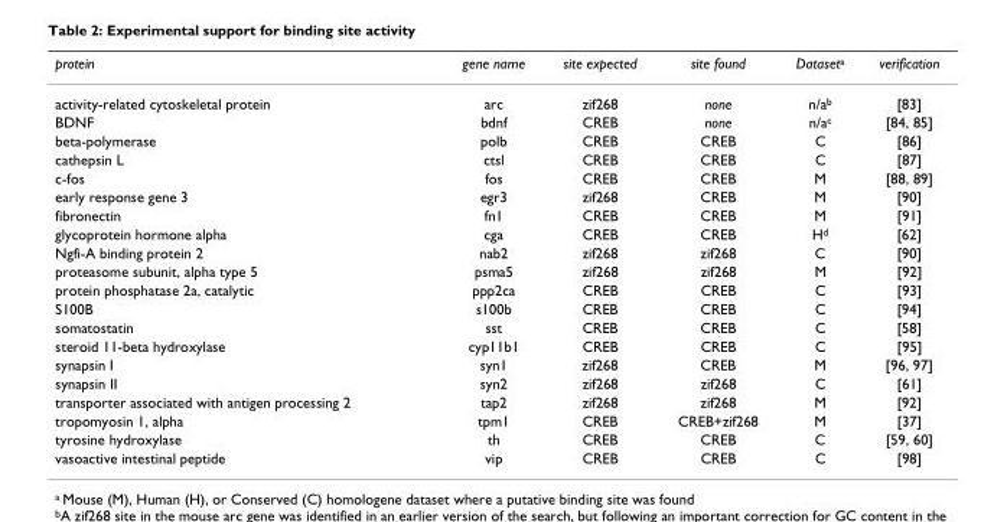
<table><thead><tr><td>protein</td><td>gene name</td><td>site expected</td><td>site found</td><td>Dataseta</td><td>verification</td></tr></thead><tbody><tr><td>activity-related cytoskeletal protein</td><td>arc</td><td>zif268</td><td>none</td><td>n/ab</td><td>[83]</td></tr><tr><td>BDNF</td><td>bdnf</td><td>CREB</td><td>none</td><td>n/ac</td><td>[84, 85]</td></tr><tr><td>beta-polymerase</td><td>polb</td><td>CREB</td><td>CREB</td><td>C</td><td>[86]</td></tr><tr><td>cathepsin L</td><td>ctsl</td><td>CREB</td><td>CREB</td><td>C</td><td>[87]</td></tr><tr><td>c-fos</td><td>fos</td><td>CREB</td><td>CREB</td><td>M</td><td>[88, 89]</td></tr><tr><td>early response gene 3</td><td>egr3</td><td>zif268</td><td>CREB</td><td>M</td><td>[90]</td></tr><tr><td>fibronectin</td><td>fn1</td><td>CREB</td><td>CREB</td><td>M</td><td>[91]</td></tr><tr><td>glycoprotein hormone alpha</td><td>cga</td><td>CREB</td><td>CREB</td><td>Hd</td><td>[62]</td></tr><tr><td>Ngfi-A binding protein 2</td><td>nab2</td><td>zif268</td><td>zif268</td><td>C</td><td>[90]</td></tr><tr><td>proteasome subunit, alpha type 5</td><td>psma5</td><td>zif268</td><td>zif268</td><td>M</td><td>[92]</td></tr><tr><td>protein phosphatase 2a, catalytic</td><td>ppp2ca</td><td>CREB</td><td>CREB</td><td>C</td><td>[93]</td></tr><tr><td>S100B</td><td>s100b</td><td>CREB</td><td>CREB</td><td>C</td><td>[94]</td></tr><tr><td>somatostatin</td><td>sst</td><td>CREB</td><td>CREB</td><td>C</td><td>[58]</td></tr><tr><td>steroid 11-beta hydroxylase</td><td>cyp11b1</td><td>CREB</td><td>CREB</td><td>C</td><td>[95]</td></tr><tr><td>synapsin I</td><td>syn1</td><td>zif268</td><td>CREB</td><td>M</td><td>[96, 97]</td></tr><tr><td>synapsin II</td><td>syn2</td><td>zif268</td><td>zif268</td><td>C</td><td>[61]</td></tr><tr><td>transporter associated with antigen processing 2</td><td>tap2</td><td>zif268</td><td>zif268</td><td>M</td><td>[92]</td></tr><tr><td>tropomyosin 1, alpha</td><td>tpm1</td><td>CREB</td><td>CREB+zif268</td><td>M</td><td>[37]</td></tr><tr><td>tyrosine hydroxylase</td><td>th</td><td>CREB</td><td>CREB</td><td>C</td><td>[59, 60]</td></tr><tr><td>vasoactive intestinal peptide</td><td>vip</td><td>CREB</td><td>CREB</td><td>C</td><td>[98]</td></tr></tbody></table>